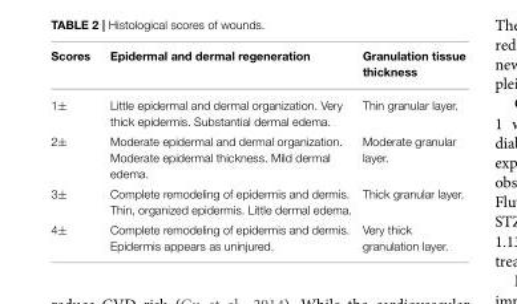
<table><thead><tr><td>Scores</td><td>Epidermal and dermal regeneration</td><td>Granulation tissue thickness</td></tr></thead><tbody><tr><td>1±</td><td>Little epidermal and dermal organization. Very thick epidermis. Substantial dermal edema.</td><td>Thin granular layer.</td></tr><tr><td>2±</td><td>Moderate epidermal and dermal organization. Moderate epidermal thickness. Mild dermal edema.</td><td>Moderate granular layer.</td></tr><tr><td>3±</td><td>Complete remodeling of epidermis and dermis. Thin, organized epidermis. Little dermal edema.</td><td>Thick granular layer.</td></tr><tr><td>4±</td><td>Complete remodeling of epidermis and dermis. Epidermis appears as uninjured.</td><td>Very thick granulation layer.</td></tr></tbody></table>